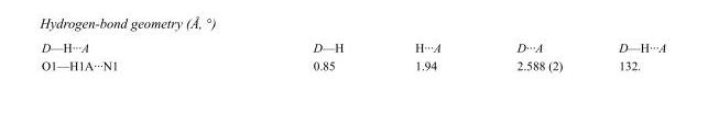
<table><tbody><tr><td>D—H···A</td><td>D—H</td><td>H···A</td><td>D···A</td><td>D—H···A</td></tr><tr><td>O1—H1A···N1</td><td>0.85</td><td>1.94</td><td>2.588 (2)</td><td>132.</td></tr></tbody></table>